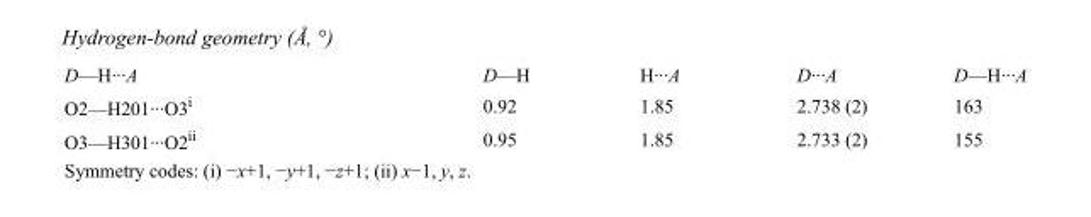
<table><tbody><tr><td>D—H···A</td><td>D—H</td><td>H···A</td><td>D···A</td><td>D—H···A</td></tr><tr><td>O2—H201···O3<sup>i</sup></td><td>0.92</td><td>1.85</td><td>2.738 (2)</td><td>163</td></tr><tr><td>O3—H301···O2<sup>ii</sup></td><td>0.95</td><td>1.85</td><td>2.733 (2)</td><td>155</td></tr></tbody></table>